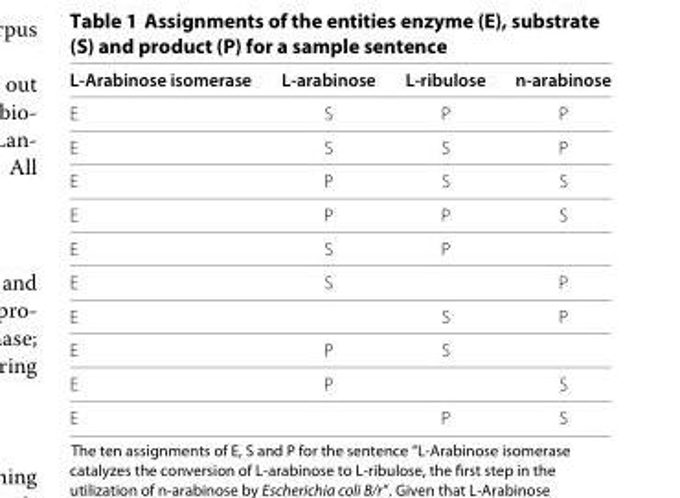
<table><thead><tr><td>L-Arabinose isomerase</td><td>L-arabinose</td><td>L-ribulose</td><td>n-arabinose</td></tr></thead><tbody><tr><td>E</td><td>S</td><td>P</td><td>P</td></tr><tr><td>E</td><td>S</td><td>S</td><td>P</td></tr><tr><td>E</td><td>P</td><td>S</td><td>S</td></tr><tr><td>E</td><td>P</td><td>P</td><td>S</td></tr><tr><td>E</td><td>S</td><td>P</td><td></td></tr><tr><td>E</td><td>S</td><td></td><td>P</td></tr><tr><td>E</td><td></td><td>S</td><td>P</td></tr><tr><td>E</td><td>P</td><td>S</td><td></td></tr><tr><td>E</td><td>P</td><td></td><td>S</td></tr><tr><td>E</td><td></td><td>P</td><td>S</td></tr></tbody></table>